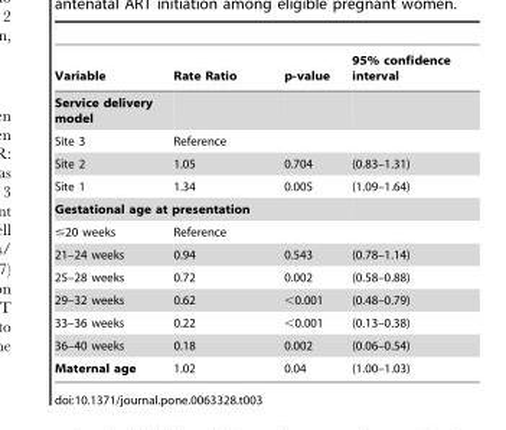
<table><thead><tr><td>Variable</td><td>Rate Ratio</td><td>p-value</td><td>95% confidence interval</td></tr></thead><tbody><tr><td colspan="4">Service delivery model</td></tr><tr><td>Site 3</td><td>Reference</td><td></td><td></td></tr><tr><td>Site 2</td><td>1.05</td><td>0.704</td><td>(0.83–1.31)</td></tr><tr><td>Site 1</td><td>1.34</td><td>0.005</td><td>(1.09–1.64)</td></tr><tr><td colspan="4">Gestational age at presentation</td></tr><tr><td>≤20 weeks</td><td>Reference</td><td></td><td></td></tr><tr><td>21–24 weeks</td><td>0.94</td><td>0.543</td><td>(0.78–1.14)</td></tr><tr><td>25–28 weeks</td><td>0.72</td><td>0.002</td><td>(0.58–0.88)</td></tr><tr><td>29–32 weeks</td><td>0.62</td><td>&lt;0.001</td><td>(0.48–0.79)</td></tr><tr><td>33–36 weeks</td><td>0.22</td><td>&lt;0.001</td><td>(0.13–0.38)</td></tr><tr><td>36–40 weeks</td><td>0.18</td><td>0.002</td><td>(0.06–0.54)</td></tr><tr><td>Maternal age</td><td>1.02</td><td>0.04</td><td>(1.00–1.03)</td></tr></tbody></table>